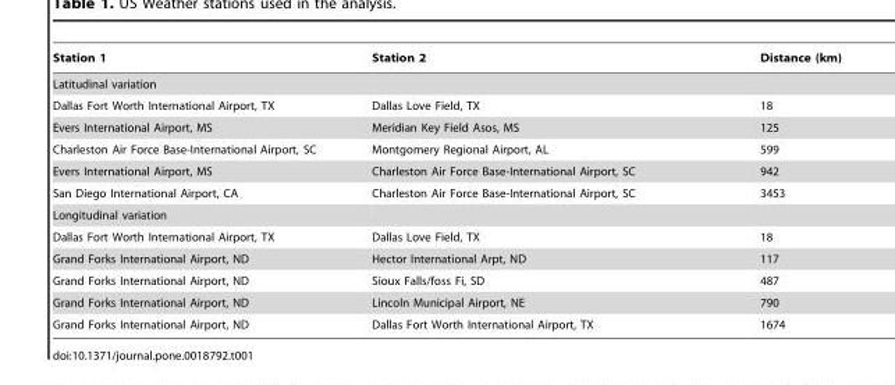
<table><thead><tr><td>Station 1</td><td>Station 2</td><td>Distance (km)</td></tr></thead><tbody><tr><td colspan="3">Latitudinal variation</td></tr><tr><td>Dallas Fort Worth International Airport, TX</td><td>Dallas Love Field, TX</td><td>18</td></tr><tr><td>Evers International Airport, MS</td><td>Meridian Key Field Asos, MS</td><td>125</td></tr><tr><td>Charleston Air Force Base-International Airport, SC</td><td>Montgomery Regional Airport, AL</td><td>599</td></tr><tr><td>Evers International Airport, MS</td><td>Charleston Air Force Base-International Airport, SC</td><td>942</td></tr><tr><td>San Diego International Airport, CA</td><td>Charleston Air Force Base-International Airport, SC</td><td>3453</td></tr><tr><td colspan="3">Longitudinal variation</td></tr><tr><td>Dallas Fort Worth International Airport, TX</td><td>Dallas Love Field, TX</td><td>18</td></tr><tr><td>Grand Forks International Airport, ND</td><td>Hector International Arpt, ND</td><td>117</td></tr><tr><td>Grand Forks International Airport, ND</td><td>Sioux Falls/foss Fi, SD</td><td>487</td></tr><tr><td>Grand Forks International Airport, ND</td><td>Lincoln Municipal Airport, NE</td><td>790</td></tr><tr><td>Grand Forks International Airport, ND</td><td>Dallas Fort Worth International Airport, TX</td><td>1674</td></tr></tbody></table>